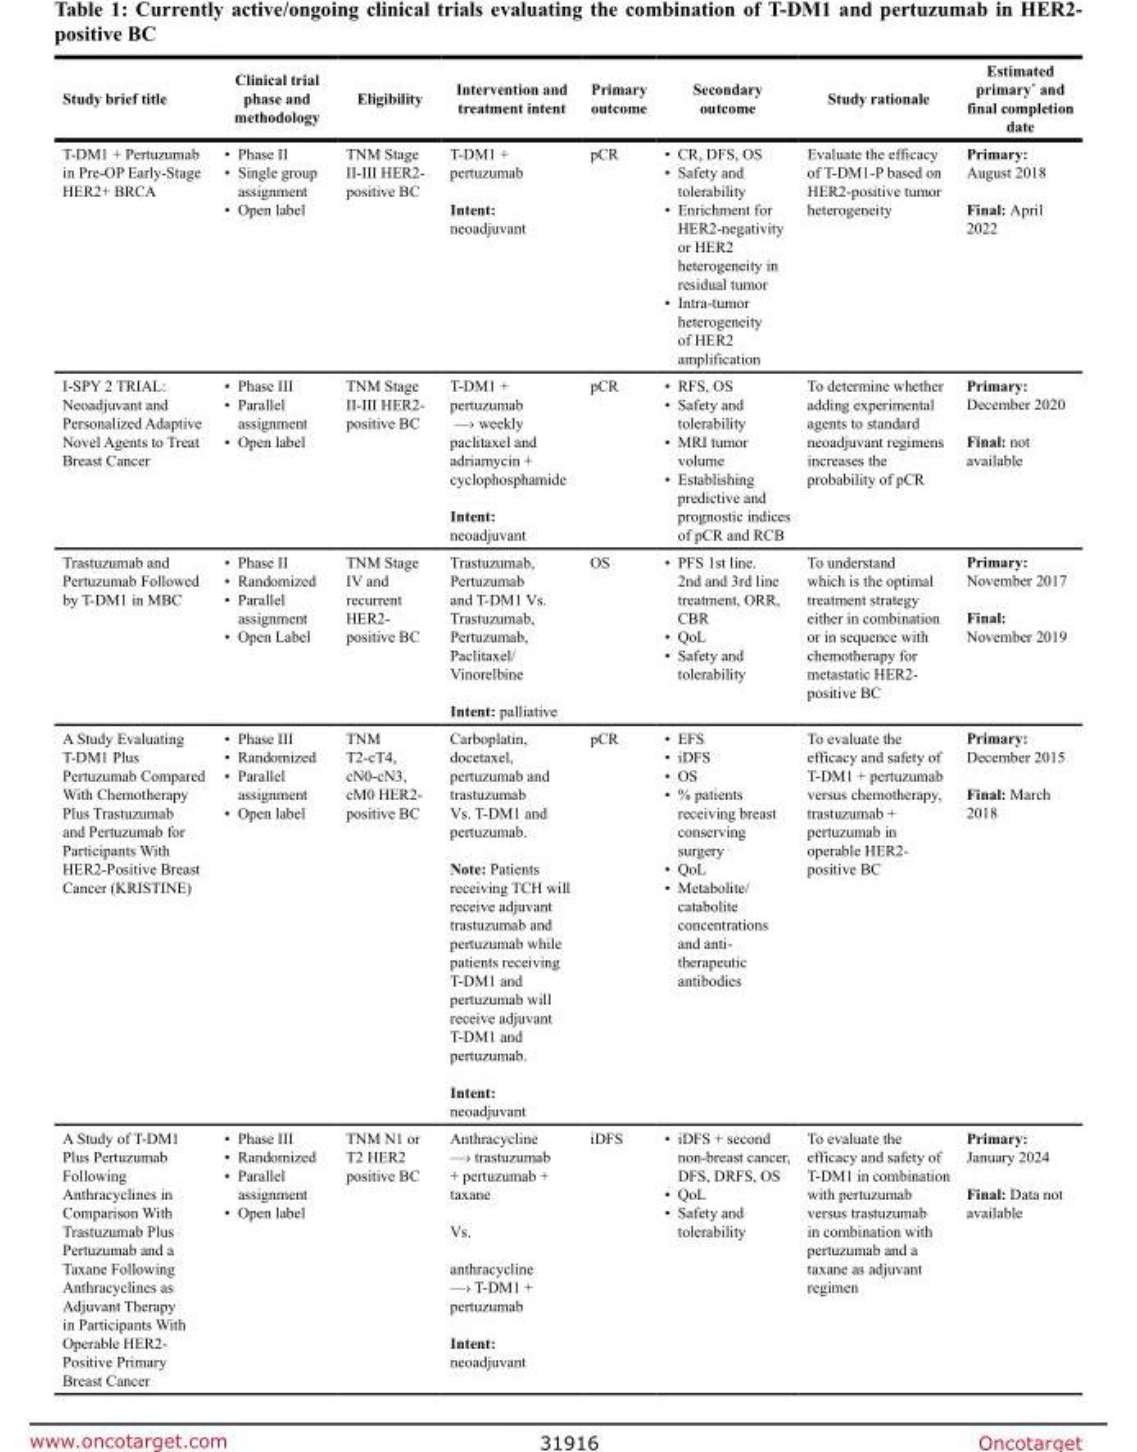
<table><thead><tr><td>Study brief title</td><td>Clinical trial phase and methodology</td><td>Eligibility</td><td>Intervention and treatment intent</td><td>Primary outcome</td><td>Secondary outcome</td><td>Study rationale</td><td>Estimated primary* and final completion date</td></tr></thead><tbody><tr><td>T-DM1 + Pertuzumab in Pre-OP Early-Stage HER2+ BRCA</td><td>• Phase II • Single group assignment • Open label</td><td>TNM Stage II-III HER2- positive BC</td><td>T-DM1 + pertuzumab Intent: neoadjuvant</td><td>pCR</td><td>• CR, DFS, OS • Safety and tolerability • Enrichment for HER2-negativity or HER2 heterogeneity in residual tumor • Intra-tumor heterogeneity of HER2 amplification</td><td>Evaluate the efficacy of T-DM1-P based on HER2-positive tumor heterogeneity</td><td>Primary: August 2018 Final: April 2022</td></tr><tr><td>I-SPY 2 TRIAL: Neoadjuvant and Personalized Adaptive Novel Agents to Treat Breast Cancer</td><td>• Phase III • Parallel assignment • Open label</td><td>TNM Stage II-III HER2- positive BC</td><td>T-DM1 + pertuzumab ––› weekly paclitaxel and adriamycin + cyclophosphamide Intent: neoadjuvant</td><td>pCR</td><td>• RFS, OS • Safety and tolerability • MRI tumor volume • Establishing predictive and prognostic indices of pCR and RCB</td><td>To determine whether adding experimental agents to standard neoadjuvant regimens increases the probability of pCR</td><td>Primary: December 2020 Final: not available</td></tr><tr><td>Trastuzumab and Pertuzumab Followed by T-DM1 in MBC</td><td>• Phase II • Randomized • Parallel assignment • Open Label</td><td>TNM Stage IV and recurrent HER2- positive BC</td><td>Trastuzumab, Pertuzumab and T-DM1 Vs. Trastuzumab, Pertuzumab, Paclitaxel/ Vinorelbine Intent: palliative</td><td>OS</td><td>• PFS 1st line. 2nd and 3rd line treatment, ORR, CBR • QoL • Safety and tolerability</td><td>To understand which is the optimal treatment strategy either in combination or in sequence with chemotherapy for metastatic HER2- positive BC</td><td>Primary: November 2017 Final: November 2019</td></tr><tr><td>A Study Evaluating T-DM1 Plus Pertuzumab Compared With Chemotherapy Plus Trastuzumab and Pertuzumab for Participants With HER2-Positive Breast Cancer (KRISTINE)</td><td>• Phase III • Randomized • Parallel assignment • Open label</td><td>TNM T2-cT4, cN0-cN3, cM0 HER2- positive BC</td><td>Carboplatin, docetaxel, pertuzumab and trastuzumab Vs. T-DM1 and pertuzumab. Note: Patients receiving TCH will receive adjuvant trastuzumab and pertuzumab while patients receiving T-DM1 and pertuzumab will receive adjuvant T-DM1 and pertuzumab. Intent: neoadjuvant</td><td>pCR</td><td>• EFS • iDFS • OS • % patients receiving breast conserving surgery • QoL • Metabolite/ catabolite concentrations and anti- therapeutic antibodies</td><td>To evaluate the efficacy and safety of T-DM1 + pertuzumab versus chemotherapy, trastuzumab + pertuzumab in operable HER2- positive BC</td><td>Primary: December 2015 Final: March 2018</td></tr><tr><td>A Study of T-DM1 Plus Pertuzumab Following Anthracyclines in Comparison With Trastuzumab Plus Pertuzumab and a Taxane Following Anthracyclines as Adjuvant Therapy in Participants With Operable HER2- Positive Primary Breast Cancer</td><td>• Phase III • Randomized • Parallel assignment • Open label</td><td>TNM N1 or T2 HER2 positive BC</td><td>Anthracycline ––› trastuzumab + pertuzumab + taxane Vs. anthracycline ––› T-DM1 + pertuzumab Intent: neoadjuvant</td><td>iDFS</td><td>• iDFS + second non-breast cancer, DFS, DRFS, OS • QoL • Safety and tolerability</td><td>To evaluate the efficacy and safety of T-DM1 in combination with pertuzumab versus trastuzumab in combination with pertuzumab and a taxane as adjuvant regimen</td><td>Primary: January 2024 Final: Data not available</td></tr></tbody></table>